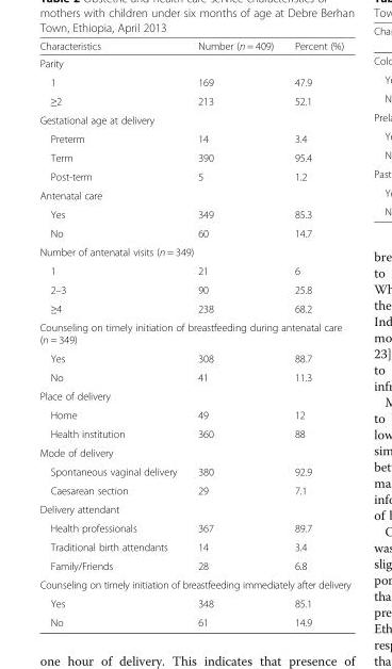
<table><thead><tr><td>Characteristics</td><td>Number (n = 409)</td><td>Percent (%)</td></tr></thead><tbody><tr><td colspan="3">Parity</td></tr><tr><td>1</td><td>169</td><td>47.9</td></tr><tr><td>≥2</td><td>213</td><td>52.1</td></tr><tr><td colspan="3">Gestational age at delivery</td></tr><tr><td>Preterm</td><td>14</td><td>3.4</td></tr><tr><td>Term</td><td>390</td><td>95.4</td></tr><tr><td>Post-term</td><td>5</td><td>1.2</td></tr><tr><td colspan="3">Antenatal care</td></tr><tr><td>Yes</td><td>349</td><td>85.3</td></tr><tr><td>No</td><td>60</td><td>14.7</td></tr><tr><td colspan="3">Number of antenatal visits (n = 349)</td></tr><tr><td>1</td><td>21</td><td>6</td></tr><tr><td>2–3</td><td>90</td><td>25.8</td></tr><tr><td>≥4</td><td>238</td><td>68.2</td></tr><tr><td colspan="3">Counseling on timely initiation of breastfeeding during antenatal care (n = 349)</td></tr><tr><td>Yes</td><td>308</td><td>88.7</td></tr><tr><td>No</td><td>41</td><td>11.3</td></tr><tr><td colspan="3">Place of delivery</td></tr><tr><td>Home</td><td>49</td><td>12</td></tr><tr><td>Health institution</td><td>360</td><td>88</td></tr><tr><td colspan="3">Mode of delivery</td></tr><tr><td>Spontaneous vaginal delivery</td><td>380</td><td>92.9</td></tr><tr><td>Caesarean section</td><td>29</td><td>7.1</td></tr><tr><td colspan="3">Delivery attendant</td></tr><tr><td>Health professionals</td><td>367</td><td>89.7</td></tr><tr><td>Traditional birth attendants</td><td>14</td><td>3.4</td></tr><tr><td>Family/Friends</td><td>28</td><td>6.8</td></tr><tr><td colspan="3">Counseling on timely initiation of breastfeeding immediately after delivery</td></tr><tr><td>Yes</td><td>348</td><td>85.1</td></tr><tr><td>No</td><td>61</td><td>14.9</td></tr></tbody></table>